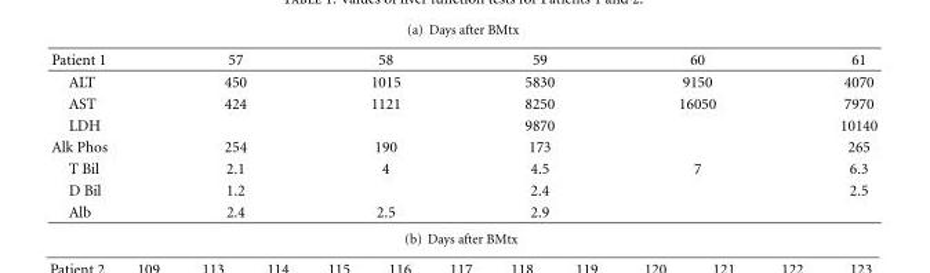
<table><thead><tr><td>Patient 1</td><td>57</td><td>58</td><td>59</td><td>60</td><td>61</td></tr></thead><tbody><tr><td>ALT</td><td>450</td><td>1015</td><td>5830</td><td>9150</td><td>4070</td></tr><tr><td>AST</td><td>424</td><td>1121</td><td>8250</td><td>16050</td><td>7970</td></tr><tr><td>LDH</td><td></td><td></td><td>9870</td><td></td><td>10140</td></tr><tr><td>Alk Phos</td><td>254</td><td>190</td><td>173</td><td></td><td>265</td></tr><tr><td>T Bil</td><td>2.1</td><td>4</td><td>4.5</td><td>7</td><td>6.3</td></tr><tr><td>D Bil</td><td>1.2</td><td></td><td>2.4</td><td></td><td>2.5</td></tr><tr><td>Alb</td><td>2.4</td><td>2.5</td><td>2.9</td><td></td><td></td></tr></tbody></table>